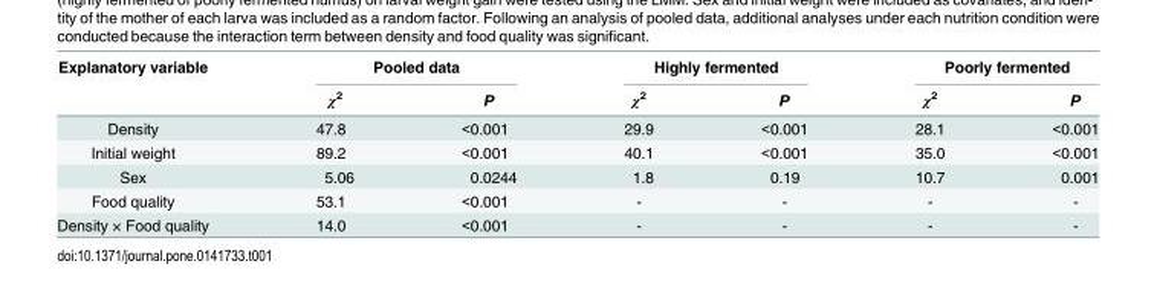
<table><thead><tr><td rowspan="2">Explanatory variable</td><td colspan="2">Pooled data</td><td colspan="2">Highly fermented</td><td colspan="2">Poorly fermented</td></tr><tr><td>χ<sup>2</sup></td><td>P</td><td>χ<sup>2</sup></td><td>P</td><td>χ<sup>2</sup></td><td>P</td></tr></thead><tbody><tr><td>Density</td><td>47.8</td><td>&lt;0.001</td><td>29.9</td><td>&lt;0.001</td><td>28.1</td><td>&lt;0.001</td></tr><tr><td>Initial weight</td><td>89.2</td><td>&lt;0.001</td><td>40.1</td><td>&lt;0.001</td><td>35.0</td><td>&lt;0.001</td></tr><tr><td>Sex</td><td>5.06</td><td>0.0244</td><td>1.8</td><td>0.19</td><td>10.7</td><td>0.001</td></tr><tr><td>Food quality</td><td>53.1</td><td>&lt;0.001</td><td>-</td><td>-</td><td>-</td><td>-</td></tr><tr><td>Density × Food quality</td><td>14.0</td><td>&lt;0.001</td><td>-</td><td>-</td><td>-</td><td>-</td></tr></tbody></table>